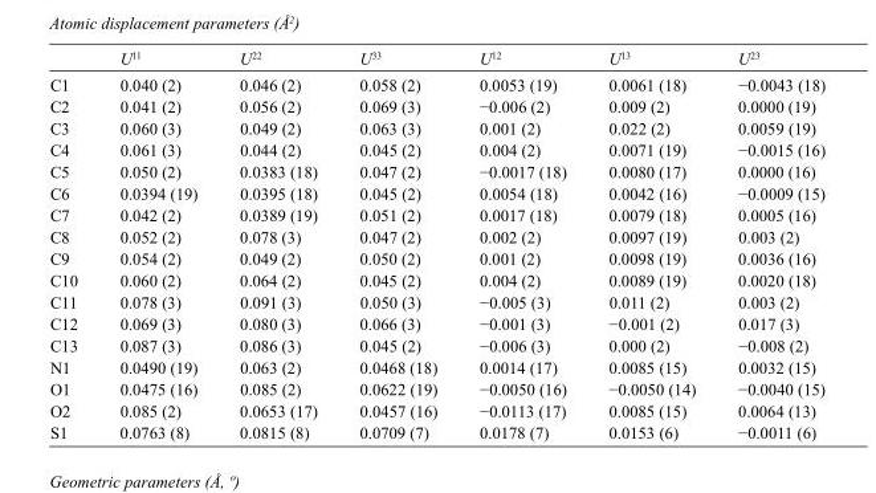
<table><thead><tr><td></td><td>U<sup>11</sup></td><td>U<sup>22</sup></td><td>U<sup>33</sup></td><td>U<sup>12</sup></td><td>U<sup>13</sup></td><td>U<sup>23</sup></td></tr></thead><tbody><tr><td>C1</td><td>0.040 (2)</td><td>0.046 (2)</td><td>0.058 (2)</td><td>0.0053 (19)</td><td>0.0061 (18)</td><td>−0.0043 (18)</td></tr><tr><td>C2</td><td>0.041 (2)</td><td>0.056 (2)</td><td>0.069 (3)</td><td>−0.006 (2)</td><td>0.009 (2)</td><td>0.0000 (19)</td></tr><tr><td>C3</td><td>0.060 (3)</td><td>0.049 (2)</td><td>0.063 (3)</td><td>0.001 (2)</td><td>0.022 (2)</td><td>0.0059 (19)</td></tr><tr><td>C4</td><td>0.061 (3)</td><td>0.044 (2)</td><td>0.045 (2)</td><td>0.004 (2)</td><td>0.0071 (19)</td><td>−0.0015 (16)</td></tr><tr><td>C5</td><td>0.050 (2)</td><td>0.0383 (18)</td><td>0.047 (2)</td><td>−0.0017 (18)</td><td>0.0080 (17)</td><td>0.0000 (16)</td></tr><tr><td>C6</td><td>0.0394 (19)</td><td>0.0395 (18)</td><td>0.045 (2)</td><td>0.0054 (18)</td><td>0.0042 (16)</td><td>−0.0009 (15)</td></tr><tr><td>C7</td><td>0.042 (2)</td><td>0.0389 (19)</td><td>0.051 (2)</td><td>0.0017 (18)</td><td>0.0079 (18)</td><td>0.0005 (16)</td></tr><tr><td>C8</td><td>0.052 (2)</td><td>0.078 (3)</td><td>0.047 (2)</td><td>0.002 (2)</td><td>0.0097 (19)</td><td>0.003 (2)</td></tr><tr><td>C9</td><td>0.054 (2)</td><td>0.049 (2)</td><td>0.050 (2)</td><td>0.001 (2)</td><td>0.0098 (19)</td><td>0.0036 (16)</td></tr><tr><td>C10</td><td>0.060 (2)</td><td>0.064 (2)</td><td>0.045 (2)</td><td>0.004 (2)</td><td>0.0089 (19)</td><td>0.0020 (18)</td></tr><tr><td>C11</td><td>0.078 (3)</td><td>0.091 (3)</td><td>0.050 (3)</td><td>−0.005 (3)</td><td>0.011 (2)</td><td>0.003 (2)</td></tr><tr><td>C12</td><td>0.069 (3)</td><td>0.080 (3)</td><td>0.066 (3)</td><td>−0.001 (3)</td><td>−0.001 (2)</td><td>0.017 (3)</td></tr><tr><td>C13</td><td>0.087 (3)</td><td>0.086 (3)</td><td>0.045 (2)</td><td>−0.006 (3)</td><td>0.000 (2)</td><td>−0.008 (2)</td></tr><tr><td>N1</td><td>0.0490 (19)</td><td>0.063 (2)</td><td>0.0468 (18)</td><td>0.0014 (17)</td><td>0.0085 (15)</td><td>0.0032 (15)</td></tr><tr><td>O1</td><td>0.0475 (16)</td><td>0.085 (2)</td><td>0.0622 (19)</td><td>−0.0050 (16)</td><td>−0.0050 (14)</td><td>−0.0040 (15)</td></tr><tr><td>O2</td><td>0.085 (2)</td><td>0.0653 (17)</td><td>0.0457 (16)</td><td>−0.0113 (17)</td><td>0.0085 (15)</td><td>0.0064 (13)</td></tr><tr><td>S1</td><td>0.0763 (8)</td><td>0.0815 (8)</td><td>0.0709 (7)</td><td>0.0178 (7)</td><td>0.0153 (6)</td><td>−0.0011 (6)</td></tr></tbody></table>